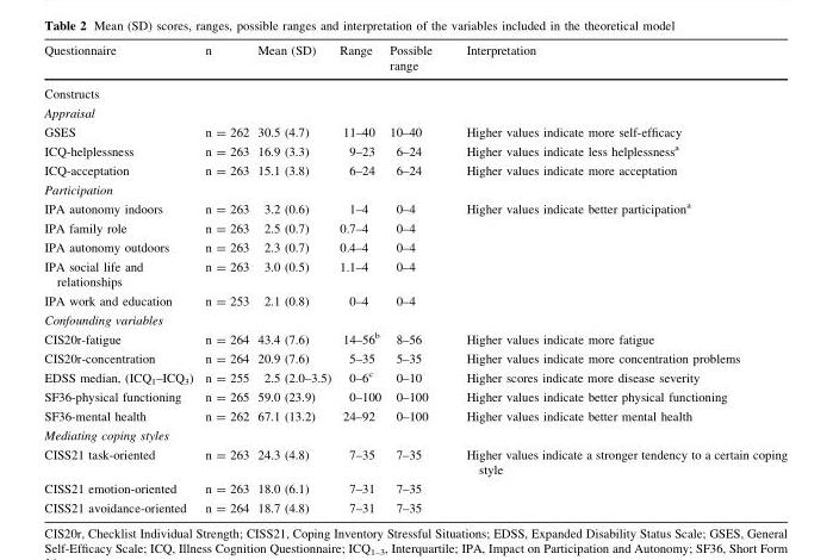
<table><thead><tr><td>Questionnaire</td><td>n</td><td>Mean (SD)</td><td>Range</td><td>Possible range</td><td>Interpretation</td></tr></thead><tbody><tr><td colspan="6">Constructs</td></tr><tr><td colspan="6">Appraisal</td></tr><tr><td>GSES</td><td>n = 262</td><td>30.5 (4.7)</td><td>11–40</td><td>10–40</td><td>Higher values indicate more self-efficacy</td></tr><tr><td>ICQ-helplessness</td><td>n = 263</td><td>16.9 (3.3)</td><td>9–23</td><td>6–24</td><td>Higher values indicate less helplessness<sup>a</sup></td></tr><tr><td>ICQ-acceptation</td><td>n = 263</td><td>15.1 (3.8)</td><td>6–24</td><td>6–24</td><td>Higher values indicate more acceptation</td></tr><tr><td colspan="6">Participation</td></tr><tr><td>IPA autonomy indoors</td><td>n = 263</td><td>3.2 (0.6)</td><td>1–4</td><td>0–4</td><td>Higher values indicate better participation<sup>a</sup></td></tr><tr><td>IPA family role</td><td>n = 263</td><td>2.5 (0.7)</td><td>0.7–4</td><td>0–4</td><td></td></tr><tr><td>IPA autonomy outdoors</td><td>n = 263</td><td>2.3 (0.7)</td><td>0.4–4</td><td>0–4</td><td></td></tr><tr><td>IPA social life and relationships</td><td>n = 263</td><td>3.0 (0.5)</td><td>1.1–4</td><td>0–4</td><td></td></tr><tr><td>IPA work and education</td><td>n = 253</td><td>2.1 (0.8)</td><td>0–4</td><td>0–4</td><td></td></tr><tr><td colspan="6">Confounding variables</td></tr><tr><td>CIS20r-fatigue</td><td>n = 264</td><td>43.4 (7.6)</td><td>14–56<sup>b</sup></td><td>8–56</td><td>Higher values indicate more fatigue</td></tr><tr><td>CIS20r-concentration</td><td>n = 264</td><td>20.9 (7.6)</td><td>5–35</td><td>5–35</td><td>Higher values indicate more concentration problems</td></tr><tr><td>EDSS median, (ICQ<sub>1</sub>–ICQ<sub>3</sub>)</td><td>n = 255</td><td>2.5 (2.0–3.5)</td><td>0–6<sup>c</sup></td><td>0–10</td><td>Higher scores indicate more disease severity</td></tr><tr><td>SF36-physical functioning</td><td>n = 265</td><td>59.0 (23.9)</td><td>0–100</td><td>0–100</td><td>Higher values indicate better physical functioning</td></tr><tr><td>SF36-mental health</td><td>n = 262</td><td>67.1 (13.2)</td><td>24–92</td><td>0–100</td><td>Higher values indicate better mental health</td></tr><tr><td colspan="6">Mediating coping styles</td></tr><tr><td>CISS21 task-oriented</td><td>n = 263</td><td>24.3 (4.8)</td><td>7–35</td><td>7–35</td><td>Higher values indicate a stronger tendency to a certain coping style</td></tr><tr><td>CISS21 emotion-oriented</td><td>n = 263</td><td>18.0 (6.1)</td><td>7–31</td><td>7–35</td><td></td></tr><tr><td>CISS21 avoidance-oriented</td><td>n = 264</td><td>18.7 (4.8)</td><td>7–31</td><td>7–35</td><td></td></tr></tbody></table>